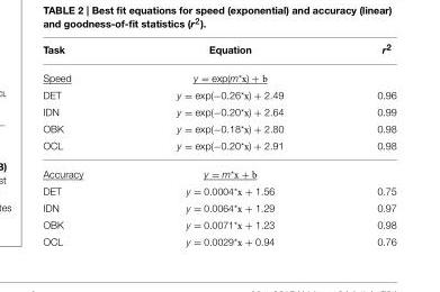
<table><thead><tr><td>Task</td><td>Equation</td><td>r<sup>2</sup></td></tr></thead><tbody><tr><td>Speed</td><td>y = exp(m*x) + b</td><td></td></tr><tr><td>DET</td><td>y = exp(−0.26*x) + 2.49</td><td>0.96</td></tr><tr><td>IDN</td><td>y = exp(−0.20*x) + 2.64</td><td>0.99</td></tr><tr><td>OBK</td><td>y = exp(−0.18*x) + 2.80</td><td>0.98</td></tr><tr><td>OCL</td><td>y = exp(−0.20*x) + 2.91</td><td>0.98</td></tr><tr><td>Accuracy</td><td>y = m*x + b</td><td></td></tr><tr><td>DET</td><td>y = 0.0004*x + 1.56</td><td>0.75</td></tr><tr><td>IDN</td><td>y = 0.0064*x + 1.29</td><td>0.97</td></tr><tr><td>OBK</td><td>y = 0.0071*x + 1.23</td><td>0.98</td></tr><tr><td>OCL</td><td>y = 0.0029*x + 0.94</td><td>0.76</td></tr></tbody></table>